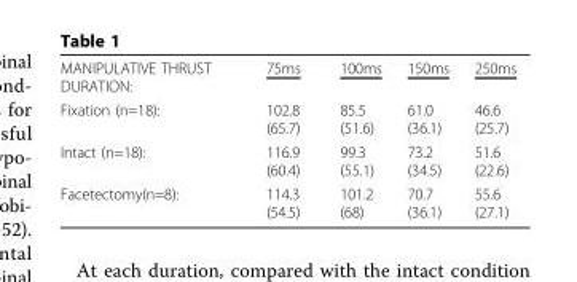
<table><tbody><tr><td>MANIPULATIVE THRUST DURATION:</td><td>75ms</td><td>100ms</td><td>150ms</td><td>250ms</td></tr><tr><td>Fixation (n=18):</td><td>102.8 (65.7)</td><td>85.5 (51.6)</td><td>61.0 (36.1)</td><td>46.6 (25.7)</td></tr><tr><td>Intact (n=18):</td><td>116.9 (60.4)</td><td>99.3 (55.1)</td><td>73.2 (34.5)</td><td>51.6 (22.6)</td></tr><tr><td>Facetectomy(n=8):</td><td>114.3 (54.5)</td><td>101.2 (68)</td><td>70.7 (36.1)</td><td>55.6 (27.1)</td></tr></tbody></table>